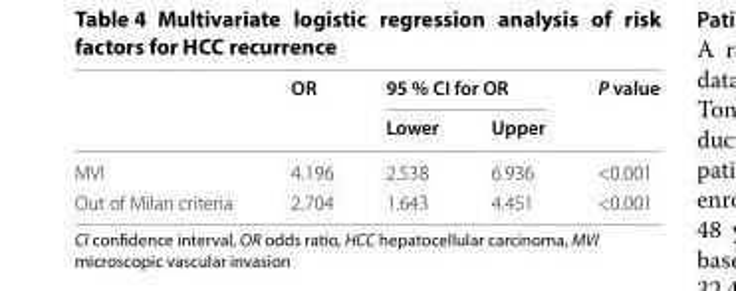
<table><thead><tr><td rowspan="2"></td><td rowspan="2">OR</td><td colspan="2">95 % CI for OR</td><td rowspan="2">P value</td></tr><tr><td>Lower</td><td>Upper</td></tr></thead><tbody><tr><td>MVI</td><td>4.196</td><td>2.538</td><td>6.936</td><td>&lt;0.001</td></tr><tr><td>Out of Milan criteria</td><td>2.704</td><td>1.643</td><td>4.451</td><td>&lt;0.001</td></tr></tbody></table>